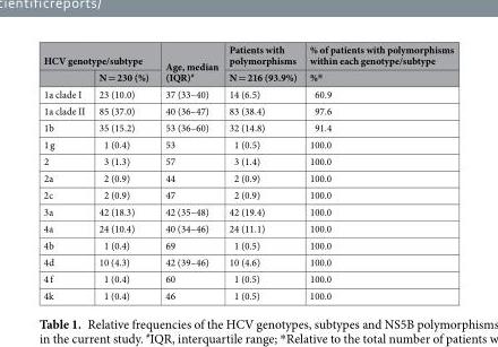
<table><thead><tr><td colspan="2">HCV genotype/subtype</td><td rowspan="2">Age, median (IQR)<sup>#</sup></td><td rowspan="2">Patients with polymorphisms N = 216 (93.9%)</td><td rowspan="2">% of patients with polymorphisms within each genotype/subtype %*</td></tr><tr><td></td><td>N = 230 (%)</td></tr></thead><tbody><tr><td>1a clade I</td><td>23 (10.0)</td><td>37 (33–40)</td><td>14 (6.5)</td><td>60.9</td></tr><tr><td>1a clade II</td><td>85 (37.0)</td><td>40 (36–47)</td><td>83 (38.4)</td><td>97.6</td></tr><tr><td>1b</td><td>35 (15.2)</td><td>53 (36–60)</td><td>32 (14.8)</td><td>91.4</td></tr><tr><td>1 g</td><td>1 (0.4)</td><td>53</td><td>1 (0.5)</td><td>100.0</td></tr><tr><td>2</td><td>3 (1.3)</td><td>57</td><td>3 (1.4)</td><td>100.0</td></tr><tr><td>2a</td><td>2 (0.9)</td><td>44</td><td>2 (0.9)</td><td>100.0</td></tr><tr><td>2c</td><td>2 (0.9)</td><td>47</td><td>2 (0.9)</td><td>100.0</td></tr><tr><td>3a</td><td>42 (18.3)</td><td>42 (35–48)</td><td>42 (19.4)</td><td>100.0</td></tr><tr><td>4a</td><td>24 (10.4)</td><td>40 (34–46)</td><td>24 (11.1)</td><td>100.0</td></tr><tr><td>4b</td><td>1 (0.4)</td><td>69</td><td>1 (0.5)</td><td>100.0</td></tr><tr><td>4d</td><td>10 (4.3)</td><td>42 (39–46)</td><td>10 (4.6)</td><td>100.0</td></tr><tr><td>4 f</td><td>1 (0.4)</td><td>60</td><td>1 (0.5)</td><td>100.0</td></tr><tr><td>4k</td><td>1 (0.4)</td><td>46</td><td>1 (0.5)</td><td>100.0</td></tr></tbody></table>